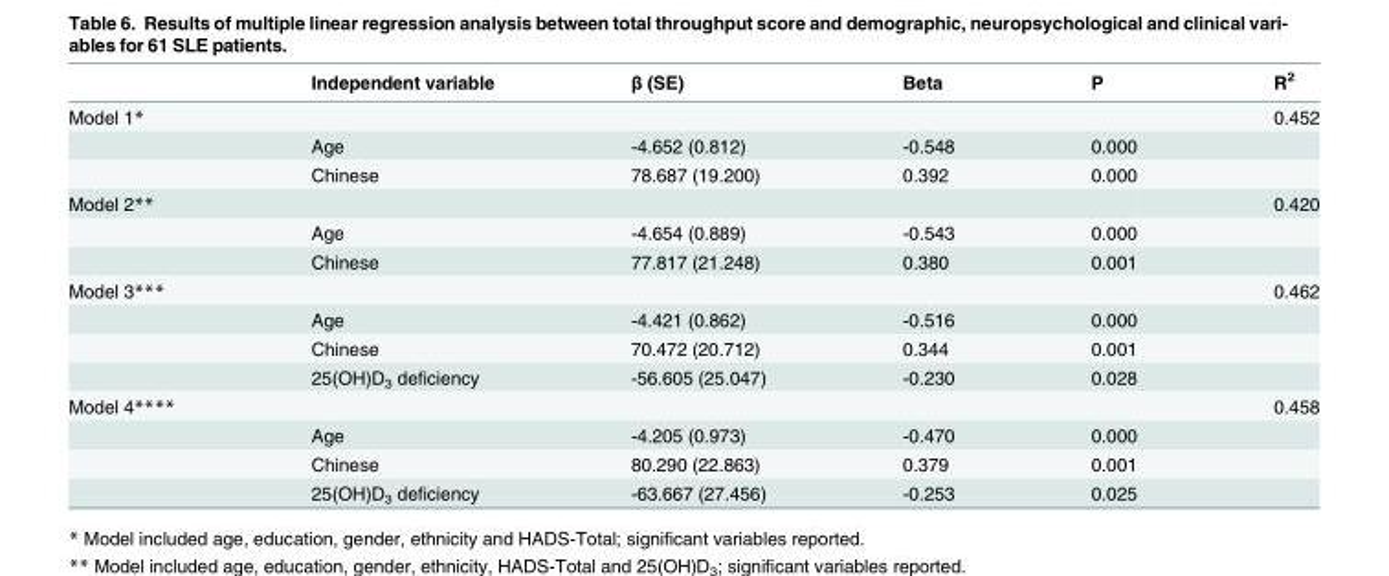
<table><thead><tr><td></td><td>Independent variable</td><td>β (SE)</td><td>Beta</td><td>P</td><td>R<sup>2</sup></td></tr></thead><tbody><tr><td rowspan="3">Model 1*</td><td></td><td></td><td></td><td></td><td>0.452</td></tr><tr><td>Age</td><td>-4.652 (0.812)</td><td>-0.548</td><td>0.000</td><td></td></tr><tr><td>Chinese</td><td>78.687 (19.200)</td><td>0.392</td><td>0.000</td><td></td></tr><tr><td rowspan="3">Model 2**</td><td></td><td></td><td></td><td></td><td>0.420</td></tr><tr><td>Age</td><td>-4.654 (0.889)</td><td>-0.543</td><td>0.000</td><td></td></tr><tr><td>Chinese</td><td>77.817 (21.248)</td><td>0.380</td><td>0.001</td><td></td></tr><tr><td rowspan="4">Model 3***</td><td></td><td></td><td></td><td></td><td>0.462</td></tr><tr><td>Age</td><td>-4.421 (0.862)</td><td>-0.516</td><td>0.000</td><td></td></tr><tr><td>Chinese</td><td>70.472 (20.712)</td><td>0.344</td><td>0.001</td><td></td></tr><tr><td>25(OH)D<sub>3</sub> deficiency</td><td>-56.605 (25.047)</td><td>-0.230</td><td>0.028</td><td></td></tr><tr><td rowspan="4">Model 4****</td><td></td><td></td><td></td><td></td><td>0.458</td></tr><tr><td>Age</td><td>-4.205 (0.973)</td><td>-0.470</td><td>0.000</td><td></td></tr><tr><td>Chinese</td><td>80.290 (22.863)</td><td>0.379</td><td>0.001</td><td></td></tr><tr><td>25(OH)D<sub>3</sub> deficiency</td><td>-63.667 (27.456)</td><td>-0.253</td><td>0.025</td><td></td></tr></tbody></table>